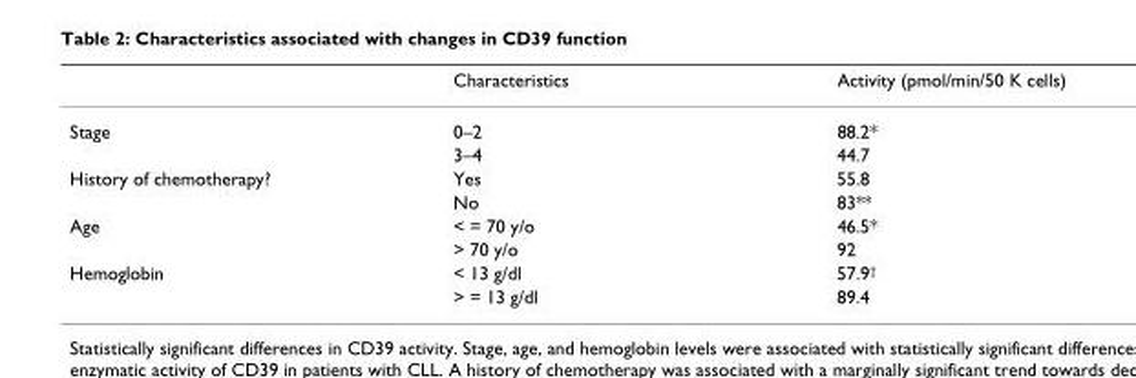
<table><thead><tr><td></td><td>Characteristics</td><td>Activity (pmol/min/50 K cells)</td></tr></thead><tbody><tr><td rowspan="2">Stage</td><td>0–2</td><td>88.2*</td></tr><tr><td>3–4</td><td>44.7</td></tr><tr><td rowspan="2">History of chemotherapy?</td><td>Yes</td><td>55.8</td></tr><tr><td>No</td><td>83**</td></tr><tr><td rowspan="2">Age</td><td>&lt; = 70 y/o</td><td>46.5*</td></tr><tr><td>&gt; 70 y/o</td><td>92</td></tr><tr><td rowspan="2">Hemoglobin</td><td>&lt; 13 g/dl</td><td>57.9<sup>†</sup></td></tr><tr><td>&gt; = 13 g/dl</td><td>89.4</td></tr></tbody></table>